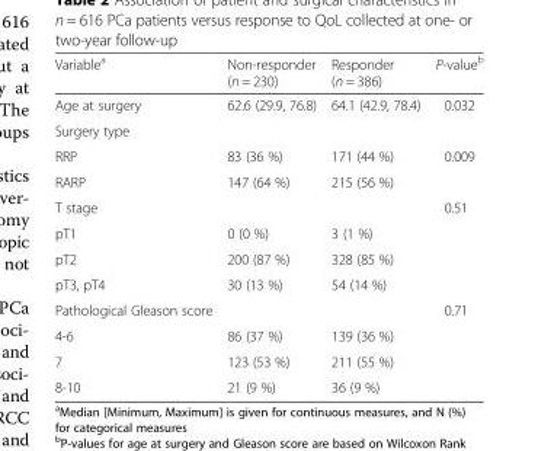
<table><thead><tr><td>Variable<sup>a</sup></td><td>Non-responder (n = 230)</td><td>Responder (n = 386)</td><td>P-value<sup>b</sup></td></tr></thead><tbody><tr><td>Age at surgery</td><td>62.6 (29.9, 76.8)</td><td>64.1 (42.9, 78.4)</td><td>0.032</td></tr><tr><td colspan="4">Surgery type</td></tr><tr><td>RRP</td><td>83 (36 %)</td><td>171 (44 %)</td><td>0.009</td></tr><tr><td>RARP</td><td>147 (64 %)</td><td>215 (56 %)</td><td></td></tr><tr><td>T stage</td><td></td><td></td><td>0.51</td></tr><tr><td>pT1</td><td>0 (0 %)</td><td>3 (1 %)</td><td></td></tr><tr><td>pT2</td><td>200 (87 %)</td><td>328 (85 %)</td><td></td></tr><tr><td>pT3, pT4</td><td>30 (13 %)</td><td>54 (14 %)</td><td></td></tr><tr><td>Pathological Gleason score</td><td></td><td></td><td>0.71</td></tr><tr><td>4-6</td><td>86 (37 %)</td><td>139 (36 %)</td><td></td></tr><tr><td>7</td><td>123 (53 %)</td><td>211 (55 %)</td><td></td></tr><tr><td>8-10</td><td>21 (9 %)</td><td>36 (9 %)</td><td></td></tr></tbody></table>